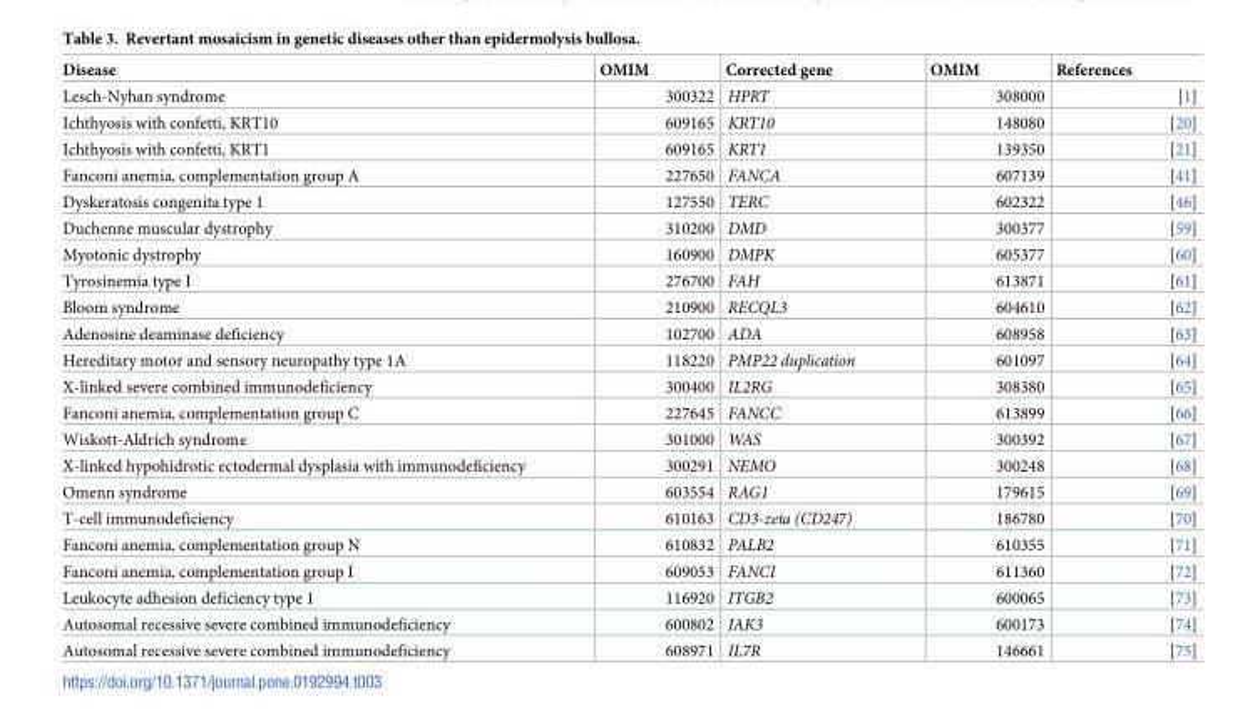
<table><thead><tr><td>Disease</td><td>OMIM</td><td>Corrected gene</td><td>OMIM</td><td>References</td></tr></thead><tbody><tr><td>Lesch-Nyhan syndrome</td><td>300322</td><td>HPRT</td><td>308000</td><td>[1]</td></tr><tr><td>Ichthyosis with confetti, KRT10</td><td>609165</td><td>KRT10</td><td>148080</td><td>[20]</td></tr><tr><td>Ichthyosis with confetti, KRT1</td><td>609165</td><td>KRT1</td><td>139350</td><td>[21]</td></tr><tr><td>Fanconi anemia, complementation group A</td><td>227650</td><td>FANCA</td><td>607139</td><td>[41]</td></tr><tr><td>Dyskeratosis congenita type 1</td><td>127550</td><td>TERC</td><td>602322</td><td>[46]</td></tr><tr><td>Duchenne muscular dystrophy</td><td>310200</td><td>DMD</td><td>300377</td><td>[59]</td></tr><tr><td>Myotonic dystrophy</td><td>160900</td><td>DMPK</td><td>605377</td><td>[60]</td></tr><tr><td>Tyrosinemia type I</td><td>276700</td><td>FAH</td><td>613871</td><td>[61]</td></tr><tr><td>Bloom syndrome</td><td>210900</td><td>RECQL3</td><td>604610</td><td>[62]</td></tr><tr><td>Adenosine deaminase deficiency</td><td>102700</td><td>ADA</td><td>608958</td><td>[63]</td></tr><tr><td>Hereditary motor and sensory neuropathy type 1A</td><td>118220</td><td>PMP22 duplication</td><td>601097</td><td>[64]</td></tr><tr><td>X-linked severe combined immunodeficiency</td><td>300400</td><td>IL2RG</td><td>308380</td><td>[65]</td></tr><tr><td>Fanconi anemia, complementation group C</td><td>227645</td><td>FANCC</td><td>613899</td><td>[66]</td></tr><tr><td>Wiskott-Aldrich syndrome</td><td>301000</td><td>WAS</td><td>300392</td><td>[67]</td></tr><tr><td>X-linked hypohidrotic ectodermal dysplasia with immunodeficiency</td><td>300291</td><td>NEMO</td><td>300248</td><td>[68]</td></tr><tr><td>Omenn syndrome</td><td>603554</td><td>RAG1</td><td>179615</td><td>[69]</td></tr><tr><td>T-cell immunodeficiency</td><td>610163</td><td>CD3-zeta (CD247)</td><td>186780</td><td>[70]</td></tr><tr><td>Fanconi anemia, complementation group N</td><td>610832</td><td>PALB2</td><td>610355</td><td>[71]</td></tr><tr><td>Fanconi anemia, complementation group I</td><td>609053</td><td>FANCI</td><td>611360</td><td>[72]</td></tr><tr><td>Leukocyte adhesion deficiency type 1</td><td>116920</td><td>ITGB2</td><td>600065</td><td>[73]</td></tr><tr><td>Autosomal recessive severe combined immunodeficiency</td><td>600802</td><td>JAK3</td><td>600173</td><td>[74]</td></tr><tr><td>Autosomal recessive severe combined immunodeficiency</td><td>608971</td><td>IL7R</td><td>146661</td><td>[75]</td></tr></tbody></table>